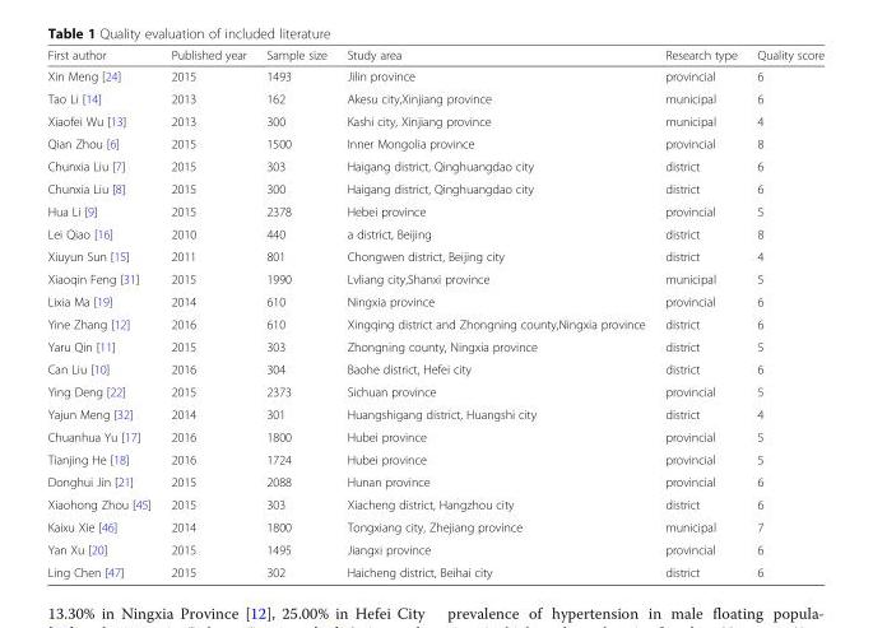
<table><thead><tr><td>First author</td><td>Published year</td><td>Sample size</td><td>Study area</td><td>Research type</td><td>Quality score</td></tr></thead><tbody><tr><td>Xin Meng [24]</td><td>2015</td><td>1493</td><td>Jilin province</td><td>provincial</td><td>6</td></tr><tr><td>Tao Li [14]</td><td>2013</td><td>162</td><td>Akesu city,Xinjiang province</td><td>municipal</td><td>6</td></tr><tr><td>Xiaofei Wu [13]</td><td>2013</td><td>300</td><td>Kashi city, Xinjiang province</td><td>municipal</td><td>4</td></tr><tr><td>Qian Zhou [6]</td><td>2015</td><td>1500</td><td>Inner Mongolia province</td><td>provincial</td><td>8</td></tr><tr><td>Chunxia Liu [7]</td><td>2015</td><td>303</td><td>Haigang district, Qinghuangdao city</td><td>district</td><td>6</td></tr><tr><td>Chunxia Liu [8]</td><td>2015</td><td>300</td><td>Haigang district, Qinghuangdao city</td><td>district</td><td>6</td></tr><tr><td>Hua Li [9]</td><td>2015</td><td>2378</td><td>Hebei province</td><td>provincial</td><td>5</td></tr><tr><td>Lei Qiao [16]</td><td>2010</td><td>440</td><td>a district, Beijing</td><td>district</td><td>8</td></tr><tr><td>Xiuyun Sun [15]</td><td>2011</td><td>801</td><td>Chongwen district, Beijing city</td><td>district</td><td>4</td></tr><tr><td>Xiaoqin Feng [31]</td><td>2015</td><td>1990</td><td>Lvliang city,Shanxi province</td><td>municipal</td><td>5</td></tr><tr><td>Lixia Ma [19]</td><td>2014</td><td>610</td><td>Ningxia province</td><td>provincial</td><td>6</td></tr><tr><td>Yine Zhang [12]</td><td>2016</td><td>610</td><td>Xingqing district and Zhongning county,Ningxia province</td><td>district</td><td>6</td></tr><tr><td>Yaru Qin [11]</td><td>2015</td><td>303</td><td>Zhongning county, Ningxia province</td><td>district</td><td>5</td></tr><tr><td>Can Liu [10]</td><td>2016</td><td>304</td><td>Baohe district, Hefei city</td><td>district</td><td>6</td></tr><tr><td>Ying Deng [22]</td><td>2015</td><td>2373</td><td>Sichuan province</td><td>provincial</td><td>5</td></tr><tr><td>Yajun Meng [32]</td><td>2014</td><td>301</td><td>Huangshigang district, Huangshi city</td><td>district</td><td>4</td></tr><tr><td>Chuanhua Yu [17]</td><td>2016</td><td>1800</td><td>Hubei province</td><td>provincial</td><td>5</td></tr><tr><td>Tianjing He [18]</td><td>2016</td><td>1724</td><td>Hubei province</td><td>provincial</td><td>5</td></tr><tr><td>Donghui Jin [21]</td><td>2015</td><td>2088</td><td>Hunan province</td><td>provincial</td><td>6</td></tr><tr><td>Xiaohong Zhou [45]</td><td>2015</td><td>303</td><td>Xiacheng district, Hangzhou city</td><td>district</td><td>6</td></tr><tr><td>Kaixu Xie [46]</td><td>2014</td><td>1800</td><td>Tongxiang city, Zhejiang province</td><td>municipal</td><td>7</td></tr><tr><td>Yan Xu [20]</td><td>2015</td><td>1495</td><td>Jiangxi province</td><td>provincial</td><td>6</td></tr><tr><td>Ling Chen [47]</td><td>2015</td><td>302</td><td>Haicheng district, Beihai city</td><td>district</td><td>6</td></tr></tbody></table>